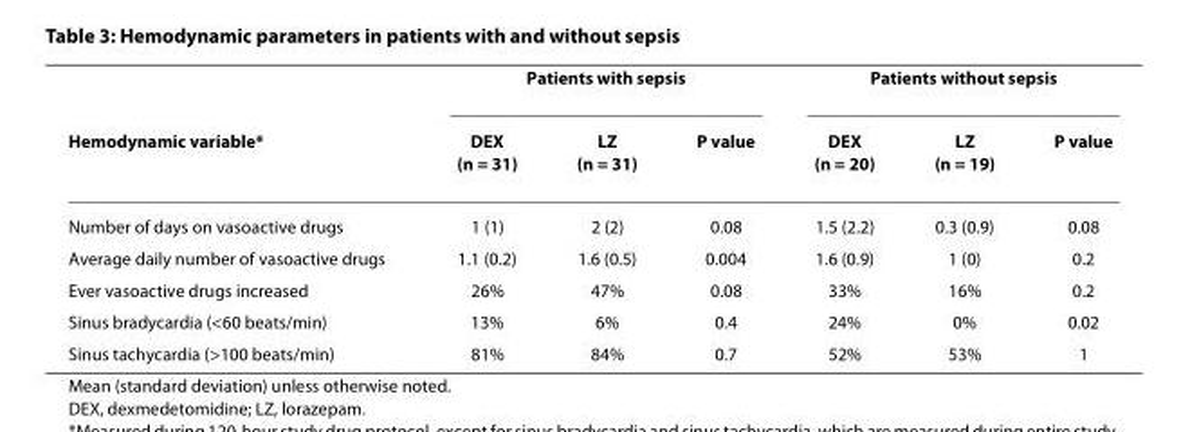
<table><thead><tr><td rowspan="2">Hemodynamic variable*</td><td colspan="3">Patients with sepsis</td><td colspan="3">Patients without sepsis</td></tr><tr><td>DEX (n = 31)</td><td>LZ (n = 31)</td><td>P value</td><td>DEX (n = 20)</td><td>LZ (n = 19)</td><td>P value</td></tr></thead><tbody><tr><td>Number of days on vasoactive drugs</td><td>1 (1)</td><td>2 (2)</td><td>0.08</td><td>1.5 (2.2)</td><td>0.3 (0.9)</td><td>0.08</td></tr><tr><td>Average daily number of vasoactive drugs</td><td>1.1 (0.2)</td><td>1.6 (0.5)</td><td>0.004</td><td>1.6 (0.9)</td><td>1 (0)</td><td>0.2</td></tr><tr><td>Ever vasoactive drugs increased</td><td>26%</td><td>47%</td><td>0.08</td><td>33%</td><td>16%</td><td>0.2</td></tr><tr><td>Sinus bradycardia (&lt;60 beats/min)</td><td>13%</td><td>6%</td><td>0.4</td><td>24%</td><td>0%</td><td>0.02</td></tr><tr><td>Sinus tachycardia (&gt;100 beats/min)</td><td>81%</td><td>84%</td><td>0.7</td><td>52%</td><td>53%</td><td>1</td></tr></tbody></table>